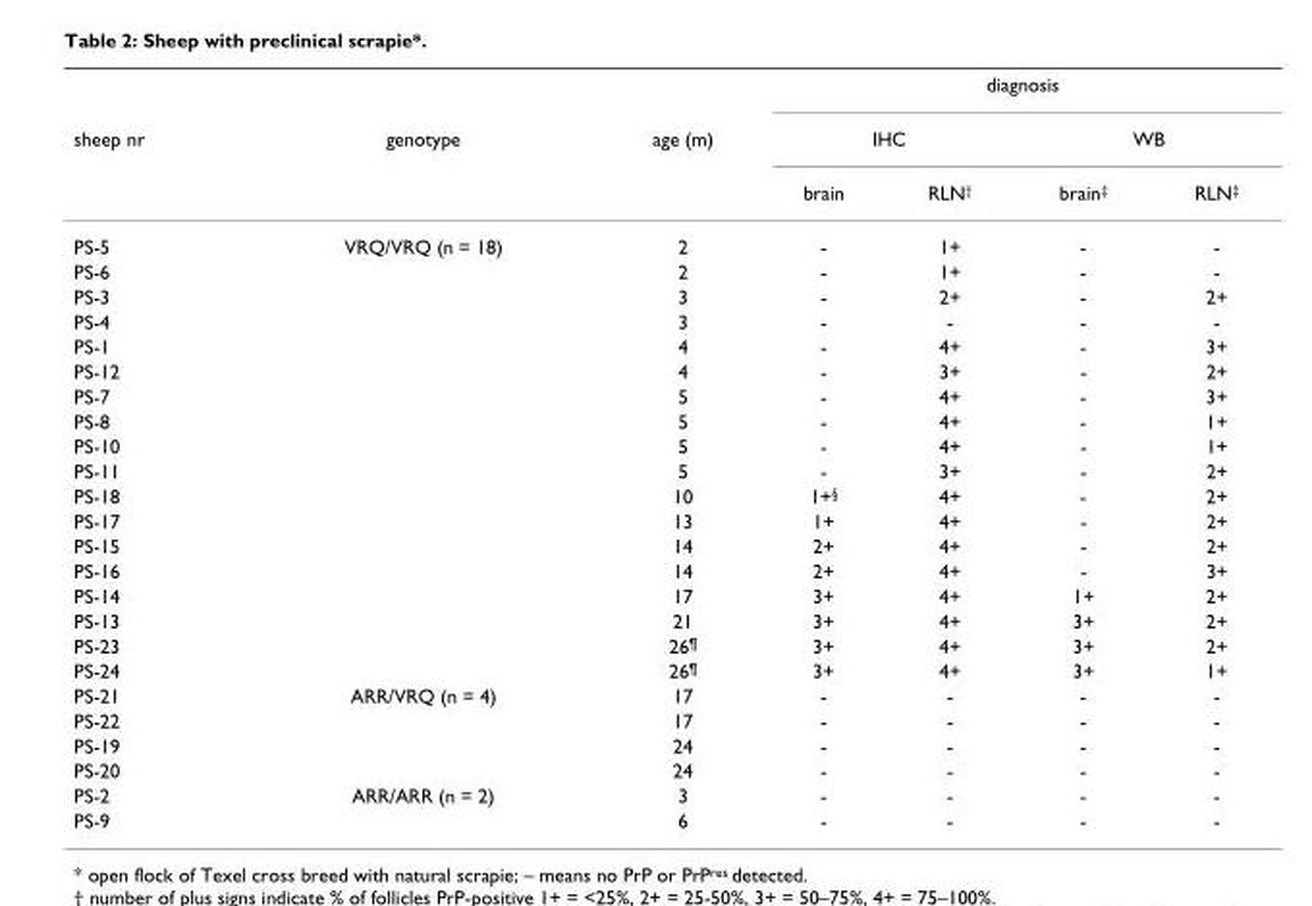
<table><thead><tr><td rowspan="3">sheep nr</td><td rowspan="3">genotype</td><td rowspan="3">age (m)</td><td colspan="4">diagnosis</td></tr><tr><td colspan="2">IHC</td><td colspan="2">WB</td></tr><tr><td>brain</td><td>RLN†</td><td>brain‡</td><td>RLN‡</td></tr></thead><tbody><tr><td>PS-5</td><td>VRQ/VRQ (n = 18)</td><td>2</td><td>-</td><td>1+</td><td>-</td><td>-</td></tr><tr><td>PS-6</td><td></td><td>2</td><td>-</td><td>1+</td><td>-</td><td>-</td></tr><tr><td>PS-3</td><td></td><td>3</td><td>-</td><td>2+</td><td>-</td><td>2+</td></tr><tr><td>PS-4</td><td></td><td>3</td><td>-</td><td>-</td><td>-</td><td>-</td></tr><tr><td>PS-1</td><td></td><td>4</td><td>-</td><td>4+</td><td>-</td><td>3+</td></tr><tr><td>PS-12</td><td></td><td>4</td><td>-</td><td>3+</td><td>-</td><td>2+</td></tr><tr><td>PS-7</td><td></td><td>5</td><td>-</td><td>4+</td><td>-</td><td>3+</td></tr><tr><td>PS-8</td><td></td><td>5</td><td>-</td><td>4+</td><td>-</td><td>1+</td></tr><tr><td>PS-10</td><td></td><td>5</td><td>-</td><td>4+</td><td>-</td><td>1+</td></tr><tr><td>PS-11</td><td></td><td>5</td><td>-</td><td>3+</td><td>-</td><td>2+</td></tr><tr><td>PS-18</td><td></td><td>10</td><td>1+§</td><td>4+</td><td>-</td><td>2+</td></tr><tr><td>PS-17</td><td></td><td>13</td><td>1+</td><td>4+</td><td>-</td><td>2+</td></tr><tr><td>PS-15</td><td></td><td>14</td><td>2+</td><td>4+</td><td>-</td><td>2+</td></tr><tr><td>PS-16</td><td></td><td>14</td><td>2+</td><td>4+</td><td>-</td><td>3+</td></tr><tr><td>PS-14</td><td></td><td>17</td><td>3+</td><td>4+</td><td>1+</td><td>2+</td></tr><tr><td>PS-13</td><td></td><td>21</td><td>3+</td><td>4+</td><td>3+</td><td>2+</td></tr><tr><td>PS-23</td><td></td><td>26¶</td><td>3+</td><td>4+</td><td>3+</td><td>2+</td></tr><tr><td>PS-24</td><td></td><td>26¶</td><td>3+</td><td>4+</td><td>3+</td><td>1+</td></tr><tr><td>PS-21</td><td>ARR/VRQ (n = 4)</td><td>17</td><td>-</td><td>-</td><td>-</td><td>-</td></tr><tr><td>PS-22</td><td></td><td>17</td><td>-</td><td>-</td><td>-</td><td>-</td></tr><tr><td>PS-19</td><td></td><td>24</td><td>-</td><td>-</td><td>-</td><td>-</td></tr><tr><td>PS-20</td><td></td><td>24</td><td>-</td><td>-</td><td>-</td><td>-</td></tr><tr><td>PS-2</td><td>ARR/ARR (n = 2)</td><td>3</td><td>-</td><td>-</td><td>-</td><td>-</td></tr><tr><td>PS-9</td><td></td><td>6</td><td>-</td><td>-</td><td>-</td><td>-</td></tr></tbody></table>